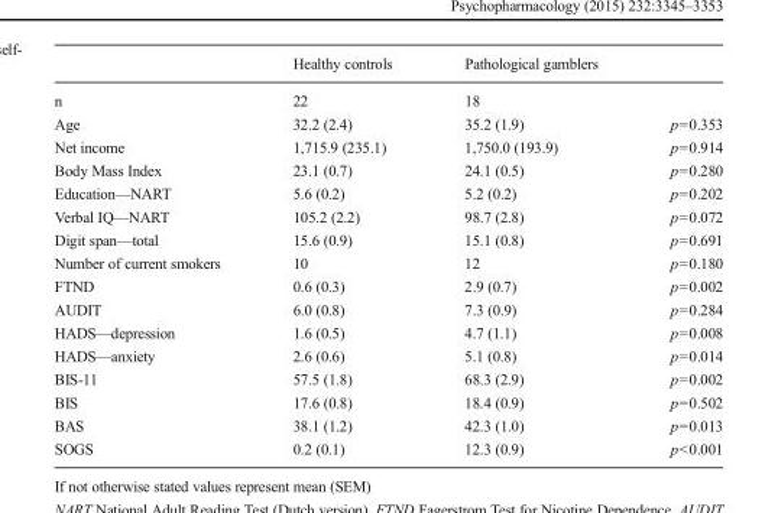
<table><thead><tr><td></td><td>Healthy controls</td><td>Pathological gamblers</td><td></td></tr></thead><tbody><tr><td>n</td><td>22</td><td>18</td><td></td></tr><tr><td>Age</td><td>32.2 (2.4)</td><td>35.2 (1.9)</td><td>p=0.353</td></tr><tr><td>Net income</td><td>1,715.9 (235.1)</td><td>1,750.0 (193.9)</td><td>p=0.914</td></tr><tr><td>Body Mass Index</td><td>23.1 (0.7)</td><td>24.1 (0.5)</td><td>p=0.280</td></tr><tr><td>Education—NART</td><td>5.6 (0.2)</td><td>5.2 (0.2)</td><td>p=0.202</td></tr><tr><td>Verbal IQ—NART</td><td>105.2 (2.2)</td><td>98.7 (2.8)</td><td>p=0.072</td></tr><tr><td>Digit span—total</td><td>15.6 (0.9)</td><td>15.1 (0.8)</td><td>p=0.691</td></tr><tr><td>Number of current smokers</td><td>10</td><td>12</td><td>p=0.180</td></tr><tr><td>FTND</td><td>0.6 (0.3)</td><td>2.9 (0.7)</td><td>p=0.002</td></tr><tr><td>AUDIT</td><td>6.0 (0.8)</td><td>7.3 (0.9)</td><td>p=0.284</td></tr><tr><td>HADS—depression</td><td>1.6 (0.5)</td><td>4.7 (1.1)</td><td>p=0.008</td></tr><tr><td>HADS—anxiety</td><td>2.6 (0.6)</td><td>5.1 (0.8)</td><td>p=0.014</td></tr><tr><td>BIS-11</td><td>57.5 (1.8)</td><td>68.3 (2.9)</td><td>p=0.002</td></tr><tr><td>BIS</td><td>17.6 (0.8)</td><td>18.4 (0.9)</td><td>p=0.502</td></tr><tr><td>BAS</td><td>38.1 (1.2)</td><td>42.3 (1.0)</td><td>p=0.013</td></tr><tr><td>SOGS</td><td>0.2 (0.1)</td><td>12.3 (0.9)</td><td>p&lt;0.001</td></tr></tbody></table>